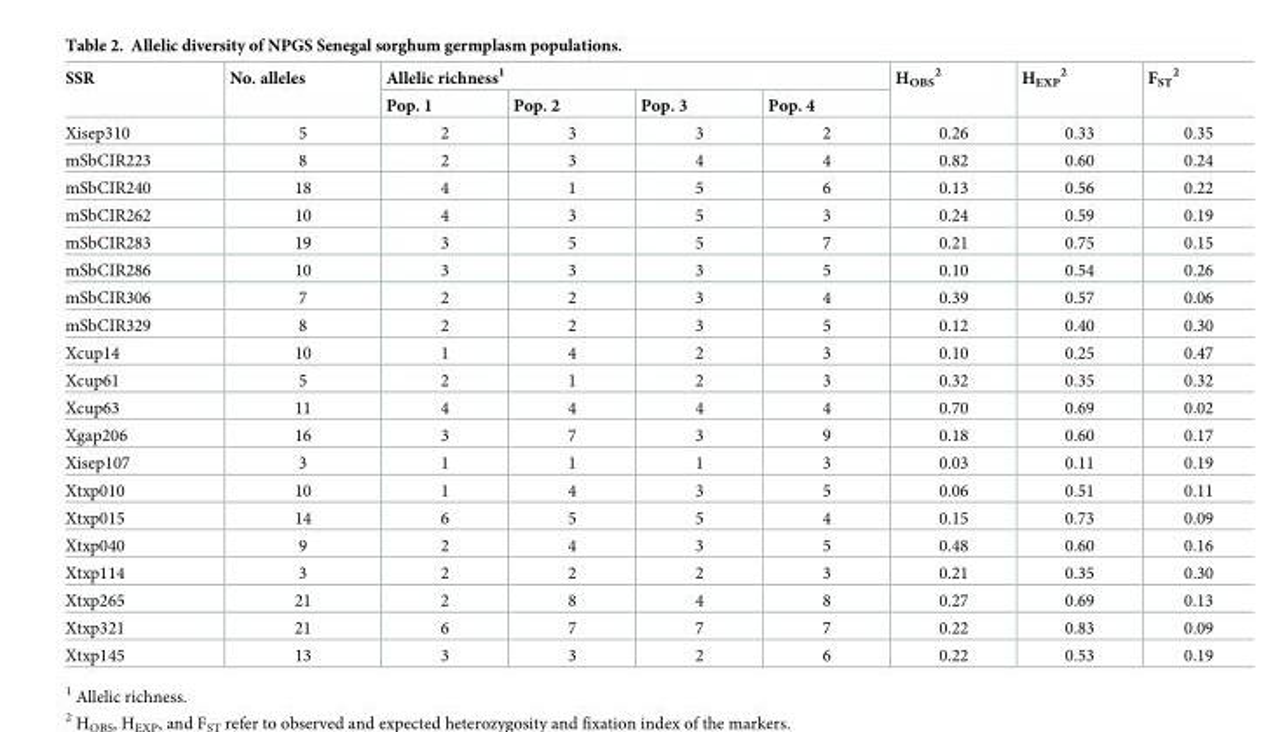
<table><thead><tr><td rowspan="2">SSR</td><td rowspan="2">No. alleles</td><td colspan="4">Allelic richness<sup>1</sup></td><td rowspan="2">H<sub>OBS</sub> <sup>2</sup></td><td rowspan="2">H<sub>EXP</sub> <sup>2</sup></td><td rowspan="2">F<sub>ST</sub> <sup>2</sup></td></tr><tr><td>Pop. 1</td><td>Pop. 2</td><td>Pop. 3</td><td>Pop. 4</td></tr></thead><tbody><tr><td>Xisep310</td><td>5</td><td>2</td><td>3</td><td>3</td><td>2</td><td>0.26</td><td>0.33</td><td>0.35</td></tr><tr><td>mSbCIR223</td><td>8</td><td>2</td><td>3</td><td>4</td><td>4</td><td>0.82</td><td>0.60</td><td>0.24</td></tr><tr><td>mSbCIR240</td><td>18</td><td>4</td><td>1</td><td>5</td><td>6</td><td>0.13</td><td>0.56</td><td>0.22</td></tr><tr><td>mSbCIR262</td><td>10</td><td>4</td><td>3</td><td>5</td><td>3</td><td>0.24</td><td>0.59</td><td>0.19</td></tr><tr><td>mSbCIR283</td><td>19</td><td>3</td><td>5</td><td>5</td><td>7</td><td>0.21</td><td>0.75</td><td>0.15</td></tr><tr><td>mSbCIR286</td><td>10</td><td>3</td><td>3</td><td>3</td><td>5</td><td>0.10</td><td>0.54</td><td>0.26</td></tr><tr><td>mSbCIR306</td><td>7</td><td>2</td><td>2</td><td>3</td><td>4</td><td>0.39</td><td>0.57</td><td>0.06</td></tr><tr><td>mSbCIR329</td><td>8</td><td>2</td><td>2</td><td>3</td><td>5</td><td>0.12</td><td>0.40</td><td>0.30</td></tr><tr><td>Xcup14</td><td>10</td><td>1</td><td>4</td><td>2</td><td>3</td><td>0.10</td><td>0.25</td><td>0.47</td></tr><tr><td>Xcup61</td><td>5</td><td>2</td><td>1</td><td>2</td><td>3</td><td>0.32</td><td>0.35</td><td>0.32</td></tr><tr><td>Xcup63</td><td>11</td><td>4</td><td>4</td><td>4</td><td>4</td><td>0.70</td><td>0.69</td><td>0.02</td></tr><tr><td>Xgap206</td><td>16</td><td>3</td><td>7</td><td>3</td><td>9</td><td>0.18</td><td>0.60</td><td>0.17</td></tr><tr><td>Xisep107</td><td>3</td><td>1</td><td>1</td><td>1</td><td>3</td><td>0.03</td><td>0.11</td><td>0.19</td></tr><tr><td>Xtxp010</td><td>10</td><td>1</td><td>4</td><td>3</td><td>5</td><td>0.06</td><td>0.51</td><td>0.11</td></tr><tr><td>Xtxp015</td><td>14</td><td>6</td><td>5</td><td>5</td><td>4</td><td>0.15</td><td>0.73</td><td>0.09</td></tr><tr><td>Xtxp040</td><td>9</td><td>2</td><td>4</td><td>3</td><td>5</td><td>0.48</td><td>0.60</td><td>0.16</td></tr><tr><td>Xtxp114</td><td>3</td><td>2</td><td>2</td><td>2</td><td>3</td><td>0.21</td><td>0.35</td><td>0.30</td></tr><tr><td>Xtxp265</td><td>21</td><td>2</td><td>8</td><td>4</td><td>8</td><td>0.27</td><td>0.69</td><td>0.13</td></tr><tr><td>Xtxp321</td><td>21</td><td>6</td><td>7</td><td>7</td><td>7</td><td>0.22</td><td>0.83</td><td>0.09</td></tr><tr><td>Xtxp145</td><td>13</td><td>3</td><td>3</td><td>2</td><td>6</td><td>0.22</td><td>0.53</td><td>0.19</td></tr></tbody></table>